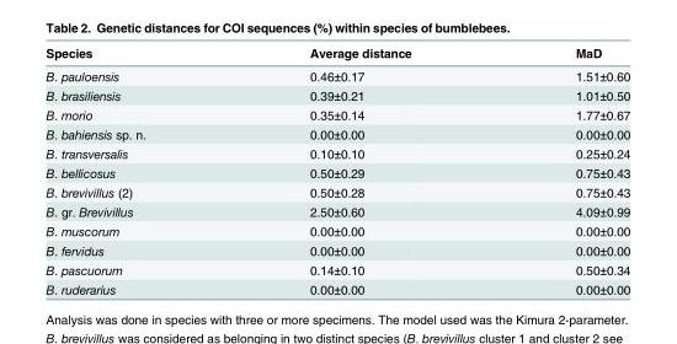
<table><thead><tr><td>Species</td><td>Average distance</td><td>MaD</td></tr></thead><tbody><tr><td>B. pauloensis</td><td>0.46±0.17</td><td>1.51±0.60</td></tr><tr><td>B. brasiliensis</td><td>0.39±0.21</td><td>1.01±0.50</td></tr><tr><td>B. morio</td><td>0.35±0.14</td><td>1.77±0.67</td></tr><tr><td>B. bahiensis sp. n.</td><td>0.00±0.00</td><td>0.00±0.00</td></tr><tr><td>B. transversalis</td><td>0.10±0.10</td><td>0.25±0.24</td></tr><tr><td>B. bellicosus</td><td>0.50±0.29</td><td>0.75±0.43</td></tr><tr><td>B. brevivillus (2)</td><td>0.50±0.28</td><td>0.75±0.43</td></tr><tr><td>B. gr. Brevivillus</td><td>2.50±0.60</td><td>4.09±0.99</td></tr><tr><td>B. muscorum</td><td>0.00±0.00</td><td>0.00±0.00</td></tr><tr><td>B. fervidus</td><td>0.00±0.00</td><td>0.00±0.00</td></tr><tr><td>B. pascuorum</td><td>0.14±0.10</td><td>0.50±0.34</td></tr><tr><td>B. ruderarius</td><td>0.00±0.00</td><td>0.00±0.00</td></tr></tbody></table>